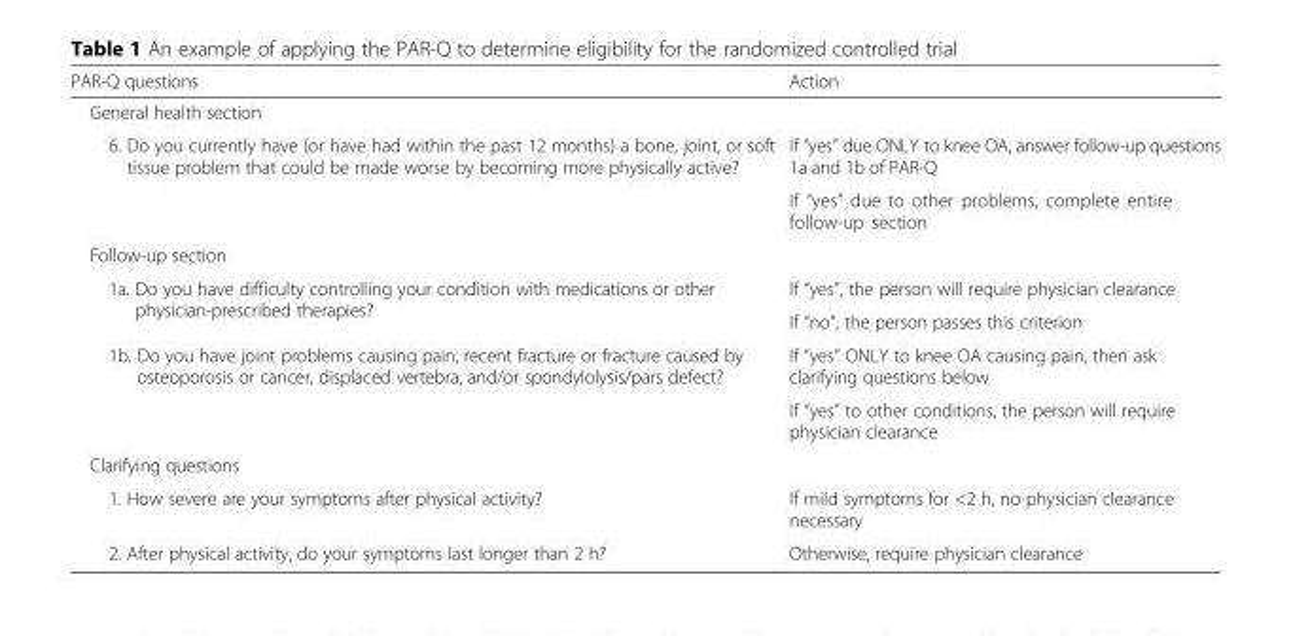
<table><thead><tr><td>PAR-Q questions</td><td>Action</td></tr></thead><tbody><tr><td colspan="2">General health section</td></tr><tr><td rowspan="2">6. Do you currently have (or have had within the past 12 months) a bone, joint, or soft tissue problem that could be made worse by becoming more physically active?</td><td>If “yes” due ONLY to knee OA, answer follow-up questions 1a and 1b of PAR-Q</td></tr><tr><td>If “yes” due to other problems, complete entire follow-up section</td></tr><tr><td colspan="2">Follow-up section</td></tr><tr><td rowspan="2">1a. Do you have difficulty controlling your condition with medications or other physician-prescribed therapies?</td><td>If “yes”, the person will require physician clearance</td></tr><tr><td>If “no”, the person passes this criterion</td></tr><tr><td rowspan="2">1b. Do you have joint problems causing pain, recent fracture or fracture caused by osteoporosis or cancer, displaced vertebra, and/or spondylolysis/pars defect?</td><td>If “yes” ONLY to knee OA causing pain, then ask clarifying questions below</td></tr><tr><td>If “yes” to other conditions, the person will require physician clearance</td></tr><tr><td colspan="2">Clarifying questions</td></tr><tr><td>1. How severe are your symptoms after physical activity?</td><td>If mild symptoms for &lt;2 h, no physician clearance necessary</td></tr><tr><td>2. After physical activity, do your symptoms last longer than 2 h?</td><td>Otherwise, require physician clearance</td></tr></tbody></table>